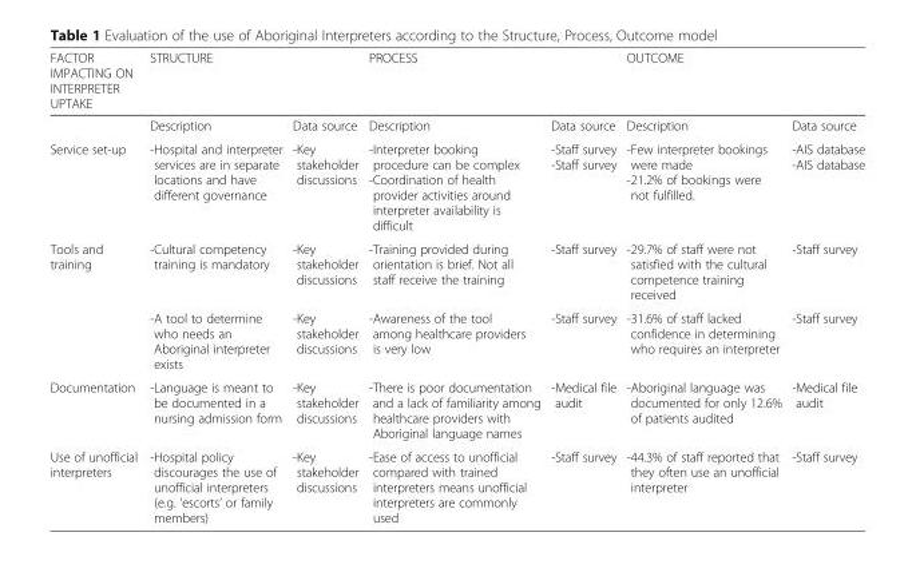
<table><thead><tr><td rowspan="2">FACTOR IMPACTING ON INTERPRETER UPTAKE</td><td colspan="2">STRUCTURE</td><td colspan="2">PROCESS</td><td colspan="2">OUTCOME</td></tr><tr><td>Description</td><td>Data source</td><td>Description</td><td>Data source</td><td>Description</td><td>Data source</td></tr></thead><tbody><tr><td>Service set-up</td><td>-Hospital and interpreter services are in separate locations and have different governance</td><td>-Key stakeholder discussions</td><td>-Interpreter booking procedure can be complex -Coordination of health provider activities around interpreter availability is difficult</td><td>-Staff survey -Staff survey</td><td>-Few interpreter bookings were made -21.2% of bookings were not fulfilled.</td><td>-AIS database -AIS database</td></tr><tr><td rowspan="2">Tools and training</td><td>-Cultural competency training is mandatory</td><td>-Key stakeholder discussions</td><td>-Training provided during orientation is brief. Not all staff receive the training</td><td>-Staff survey</td><td>-29.7% of staff were not satisfied with the cultural competence training received</td><td>-Staff survey</td></tr><tr><td>-A tool to determine who needs an Aboriginal interpreter exists</td><td>-Key stakeholder discussions</td><td>-Awareness of the tool among healthcare providers is very low</td><td>-Staff survey</td><td>-31.6% of staff lacked confidence in determining who requires an interpreter</td><td>-Staff survey</td></tr><tr><td>Documentation</td><td>-Language is meant to be documented in a nursing admission form</td><td>-Key stakeholder discussions</td><td>-There is poor documentation and a lack of familiarity among healthcare providers with Aboriginal language names</td><td>-Medical file audit</td><td>-Aboriginal language was documented for only 12.6% of patients audited</td><td>-Medical file audit</td></tr><tr><td>Use of unofficial interpreters</td><td>-Hospital policy discourages the use of unofficial interpreters (e.g. ‘escorts’ or family members)</td><td>-Key stakeholder discussions</td><td>-Ease of access to unofficial compared with trained interpreters means unofficial interpreters are commonly used</td><td>-Staff survey</td><td>-44.3% of staff reported that they often use an unofficial interpreter</td><td>-Staff survey</td></tr></tbody></table>